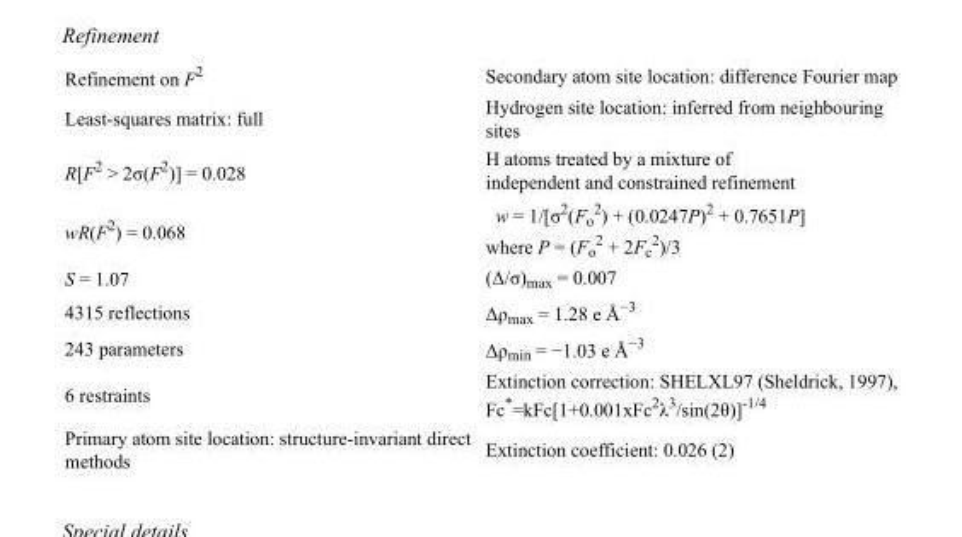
<table><tbody><tr><td>Refinement on F<sup>2</sup></td><td>Secondary atom site location: difference Fourier map</td></tr><tr><td>Least-squares matrix: full</td><td>Hydrogen site location: inferred from neighbouring sites</td></tr><tr><td>R[F<sup>2</sup> &gt; 2σ(F<sup>2</sup>)] = 0.028</td><td>H atoms treated by a mixture of independent and constrained refinement</td></tr><tr><td>wR(F<sup>2</sup>) = 0.068</td><td>w = 1/[σ<sup>2</sup>(F<sub>o</sub> <sup>2</sup>) + (0.0247P)<sup>2</sup> + 0.7651P] where P = (F<sub>o</sub> <sup>2</sup> + 2F<sub>c</sub> <sup>2</sup>)/3</td></tr><tr><td>S = 1.07</td><td>(Δ/σ)<sub>max</sub> = 0.007</td></tr><tr><td>4315 reflections</td><td>Δρ<sub>max</sub> = 1.28 e Å<sup>−3</sup></td></tr><tr><td>243 parameters</td><td>Δρ<sub>min</sub> = −1.03 e Å<sup>−3</sup></td></tr><tr><td>6 restraints</td><td>Extinction correction: SHELXL97 (Sheldrick, 1997), Fc*=kFc[1+0.001xFc<sup>2</sup>λ<sup>3</sup>/sin(2θ)]<sup>-1/4</sup></td></tr><tr><td>Primary atom site location: structure-invariant direct methods</td><td>Extinction coefficient: 0.026 (2)</td></tr></tbody></table>